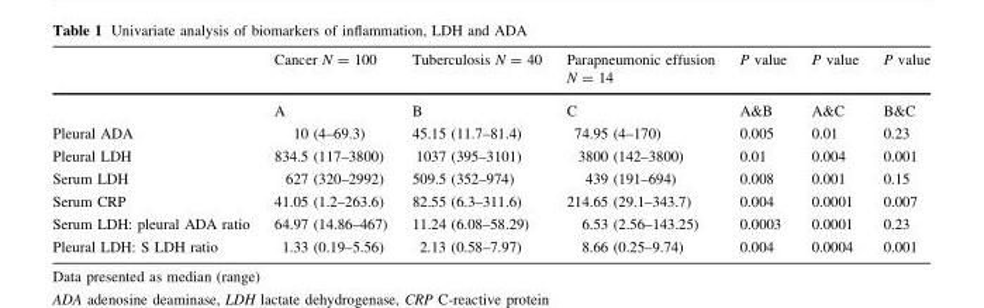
<table><thead><tr><td></td><td>Cancer N = 100</td><td>Tuberculosis N = 40</td><td>Parapneumonic effusion N = 14</td><td>P value</td><td>P value</td><td>P value</td></tr></thead><tbody><tr><td></td><td>A</td><td>B</td><td>C</td><td>A&amp;B</td><td>A&amp;C</td><td>B&amp;C</td></tr><tr><td>Pleural ADA</td><td>10 (4–69.3)</td><td>45.15 (11.7–81.4)</td><td>74.95 (4–170)</td><td>0.005</td><td>0.01</td><td>0.23</td></tr><tr><td>Pleural LDH</td><td>834.5 (117–3800)</td><td>1037 (395–3101)</td><td>3800 (142–3800)</td><td>0.01</td><td>0.004</td><td>0.001</td></tr><tr><td>Serum LDH</td><td>627 (320–2992)</td><td>509.5 (352–974)</td><td>439 (191–694)</td><td>0.008</td><td>0.001</td><td>0.15</td></tr><tr><td>Serum CRP</td><td>41.05 (1.2–263.6)</td><td>82.55 (6.3–311.6)</td><td>214.65 (29.1–343.7)</td><td>0.004</td><td>0.0001</td><td>0.007</td></tr><tr><td>Serum LDH: pleural ADA ratio</td><td>64.97 (14.86–467)</td><td>11.24 (6.08–58.29)</td><td>6.53 (2.56–143.25)</td><td>0.0003</td><td>0.0001</td><td>0.23</td></tr><tr><td>Pleural LDH: S LDH ratio</td><td>1.33 (0.19–5.56)</td><td>2.13 (0.58–7.97)</td><td>8.66 (0.25–9.74)</td><td>0.004</td><td>0.0004</td><td>0.001</td></tr></tbody></table>